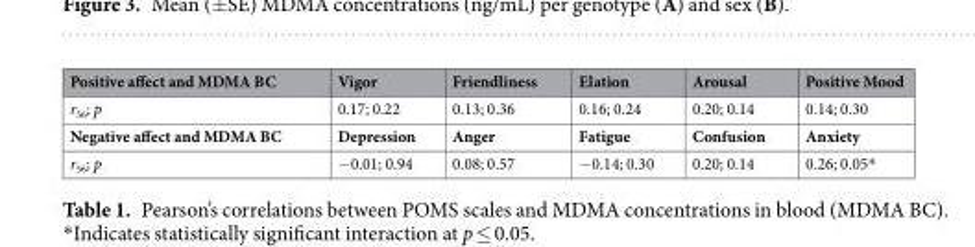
<table><thead><tr><td>Positive affect and MDMA BC</td><td>Vigor</td><td>Friendliness</td><td>Elation</td><td>Arousal</td><td>Positive Mood</td></tr></thead><tbody><tr><td>r<sub>56</sub>; p</td><td>0.17; 0.22</td><td>0.13; 0.36</td><td>0.16; 0.24</td><td>0.20; 0.14</td><td>0.14; 0.30</td></tr><tr><td>Negative affect and MDMA BC</td><td>Depression</td><td>Anger</td><td>Fatigue</td><td>Confusion</td><td>Anxiety</td></tr><tr><td>r<sub>56</sub>; p</td><td>−0.01; 0.94</td><td>0.08; 0.57</td><td>−0.14; 0.30</td><td>0.20; 0.14</td><td>0.26; 0.05*</td></tr></tbody></table>